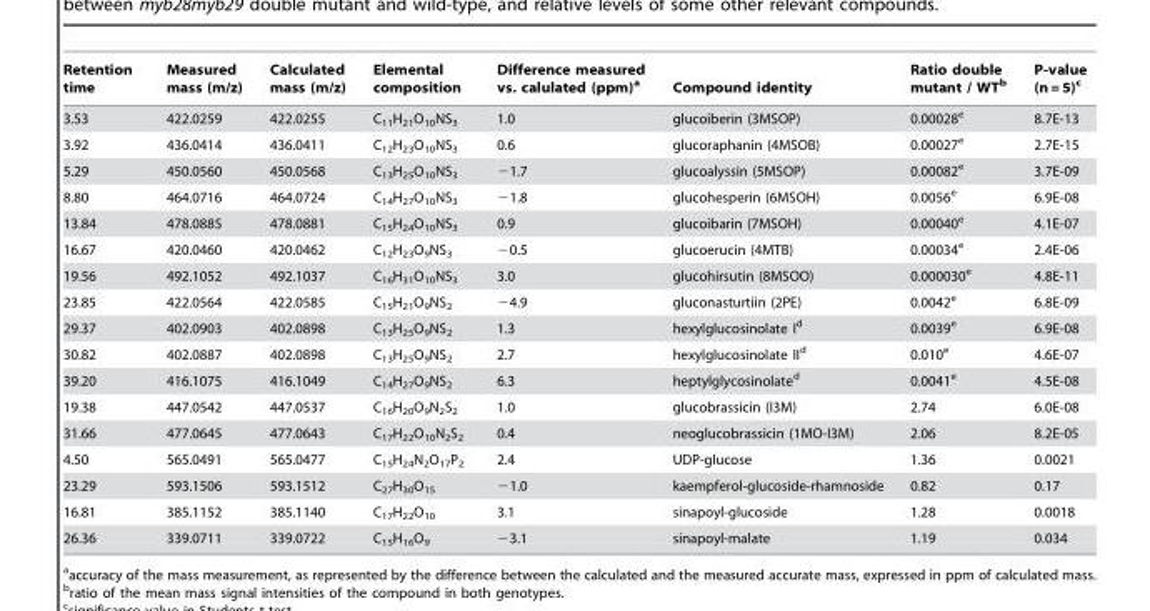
<table><thead><tr><td>Retention time</td><td>Measured mass (m/z)</td><td>Calculated mass (m/z)</td><td>Elemental composition</td><td>Difference measured vs. calulated (ppm)<sup>a</sup></td><td>Compound identity</td><td>Ratio double mutant / WT<sup>b</sup></td><td>P-value (n = 5)<sup>c</sup></td></tr></thead><tbody><tr><td>3.53</td><td>422.0259</td><td>422.0255</td><td>C<sub>11</sub>H<sub>21</sub>O<sub>10</sub>NS<sub>3</sub></td><td>1.0</td><td>glucoiberin (3MSOP)</td><td>0.00028<sup>e</sup></td><td>8.7E-13</td></tr><tr><td>3.92</td><td>436.0414</td><td>436.0411</td><td>C<sub>12</sub>H<sub>23</sub>O<sub>10</sub>NS<sub>3</sub></td><td>0.6</td><td>glucoraphanin (4MSOB)</td><td>0.00027<sup>e</sup></td><td>2.7E-15</td></tr><tr><td>5.29</td><td>450.0560</td><td>450.0568</td><td>C<sub>13</sub>H<sub>25</sub>O<sub>10</sub>NS<sub>3</sub></td><td>−1.7</td><td>glucoalyssin (5MSOP)</td><td>0.00082<sup>e</sup></td><td>3.7E-09</td></tr><tr><td>8.80</td><td>464.0716</td><td>464.0724</td><td>C<sub>14</sub>H<sub>27</sub>O<sub>10</sub>NS<sub>3</sub></td><td>−1.8</td><td>glucohesperin (6MSOH)</td><td>0.0056<sup>e</sup></td><td>6.9E-08</td></tr><tr><td>13.84</td><td>478.0885</td><td>478.0881</td><td>C<sub>15</sub>H<sub>24</sub>O<sub>10</sub>NS<sub>3</sub></td><td>0.9</td><td>glucoibarin (7MSOH)</td><td>0.00040<sup>e</sup></td><td>4.1E-07</td></tr><tr><td>16.67</td><td>420.0460</td><td>420.0462</td><td>C<sub>12</sub>H<sub>23</sub>O<sub>9</sub>NS<sub>3</sub></td><td>−0.5</td><td>glucoerucin (4MTB)</td><td>0.00034<sup>e</sup></td><td>2.4E-06</td></tr><tr><td>19.56</td><td>492.1052</td><td>492.1037</td><td>C<sub>16</sub>H<sub>31</sub>O<sub>10</sub>NS<sub>3</sub></td><td>3.0</td><td>glucohirsutin (8MSOO)</td><td>0.000030<sup>e</sup></td><td>4.8E-11</td></tr><tr><td>23.85</td><td>422.0564</td><td>422.0585</td><td>C<sub>15</sub>H<sub>21</sub>O<sub>9</sub>NS<sub>2</sub></td><td>−4.9</td><td>gluconasturtiin (2PE)</td><td>0.0042<sup>e</sup></td><td>6.8E-09</td></tr><tr><td>29.37</td><td>402.0903</td><td>402.0898</td><td>C<sub>13</sub>H<sub>25</sub>O<sub>9</sub>NS<sub>2</sub></td><td>1.3</td><td>hexylglucosinolate I<sup>d</sup></td><td>0.0039<sup>e</sup></td><td>6.9E-08</td></tr><tr><td>30.82</td><td>402.0887</td><td>402.0898</td><td>C<sub>13</sub>H<sub>25</sub>O<sub>9</sub>NS<sub>2</sub></td><td>2.7</td><td>hexylglucosinolate II<sup>d</sup></td><td>0.010<sup>e</sup></td><td>4.6E-07</td></tr><tr><td>39.20</td><td>416.1075</td><td>416.1049</td><td>C<sub>14</sub>H<sub>27</sub>O<sub>9</sub>NS<sub>2</sub></td><td>6.3</td><td>heptylglycosinolate<sup>d</sup></td><td>0.0041<sup>e</sup></td><td>4.5E-08</td></tr><tr><td>19.38</td><td>447.0542</td><td>447.0537</td><td>C<sub>16</sub>H<sub>20</sub>O<sub>9</sub>N<sub>2</sub>S<sub>2</sub></td><td>1.0</td><td>glucobrassicin (I3M)</td><td>2.74</td><td>6.0E-08</td></tr><tr><td>31.66</td><td>477.0645</td><td>477.0643</td><td>C<sub>17</sub>H<sub>22</sub>O<sub>10</sub>N<sub>2</sub>S<sub>2</sub></td><td>0.4</td><td>neoglucobrassicin (1MO-I3M)</td><td>2.06</td><td>8.2E-05</td></tr><tr><td>4.50</td><td>565.0491</td><td>565.0477</td><td>C<sub>15</sub>H<sub>24</sub>N<sub>2</sub>O<sub>17</sub>P<sub>2</sub></td><td>2.4</td><td>UDP-glucose</td><td>1.36</td><td>0.0021</td></tr><tr><td>23.29</td><td>593.1506</td><td>593.1512</td><td>C<sub>27</sub>H<sub>30</sub>O<sub>15</sub></td><td>−1.0</td><td>kaempferol-glucoside-rhamnoside</td><td>0.82</td><td>0.17</td></tr><tr><td>16.81</td><td>385.1152</td><td>385.1140</td><td>C<sub>17</sub>H<sub>22</sub>O<sub>10</sub></td><td>3.1</td><td>sinapoyl-glucoside</td><td>1.28</td><td>0.0018</td></tr><tr><td>26.36</td><td>339.0711</td><td>339.0722</td><td>C<sub>15</sub>H<sub>16</sub>O<sub>9</sub></td><td>−3.1</td><td>sinapoyl-malate</td><td>1.19</td><td>0.034</td></tr></tbody></table>